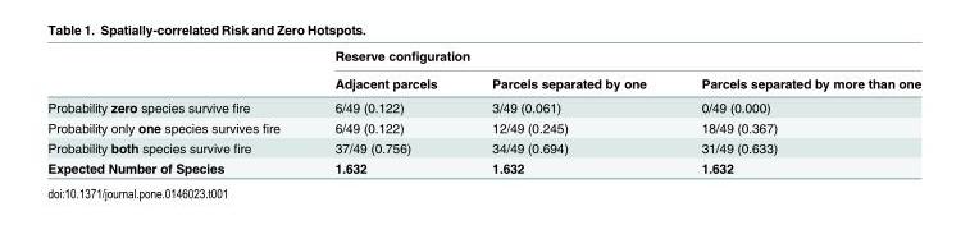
<table><thead><tr><td rowspan="2"></td><td colspan="3">Reserve configuration</td></tr><tr><td>Adjacent parcels</td><td>Parcels separated by one</td><td>Parcels separated by more than one</td></tr></thead><tbody><tr><td>Probability zero species survive fire</td><td>6/49 (0.122)</td><td>3/49 (0.061)</td><td>0/49 (0.000)</td></tr><tr><td>Probability only one species survives fire</td><td>6/49 (0.122)</td><td>12/49 (0.245)</td><td>18/49 (0.367)</td></tr><tr><td>Probability both species survive fire</td><td>37/49 (0.756)</td><td>34/49 (0.694)</td><td>31/49 (0.633)</td></tr><tr><td>Expected Number of Species</td><td>1.632</td><td>1.632</td><td>1.632</td></tr></tbody></table>